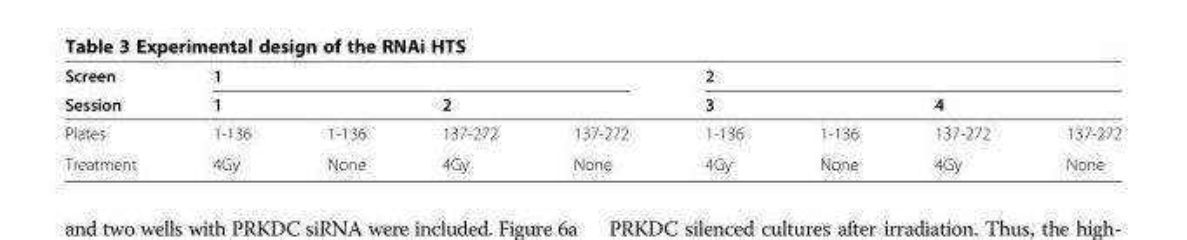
<table><thead><tr><td rowspan="3">Screen Session Plates</td><td colspan="4">1</td><td colspan="4">2</td></tr><tr><td colspan="2">1</td><td colspan="2">2</td><td colspan="2">3</td><td colspan="2">4</td></tr><tr><td>1-136</td><td>1-136</td><td>137-272</td><td>137-272</td><td>1-136</td><td>1-136</td><td>137-272</td><td>137-272</td></tr></thead><tbody><tr><td>Treatment</td><td>4Gy</td><td>None</td><td>4Gy</td><td>None</td><td>4Gy</td><td>None</td><td>4Gy</td><td>None</td></tr></tbody></table>